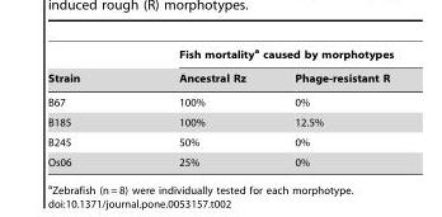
<table><thead><tr><td rowspan="2">Strain</td><td colspan="2">Fish mortality<sup>a</sup> caused by morphotypes</td></tr><tr><td>Ancestral Rz</td><td>Phage-resistant R</td></tr></thead><tbody><tr><td>B67</td><td>100%</td><td>0%</td></tr><tr><td>B185</td><td>100%</td><td>12.5%</td></tr><tr><td>B245</td><td>50%</td><td>0%</td></tr><tr><td>Os06</td><td>25%</td><td>0%</td></tr></tbody></table>